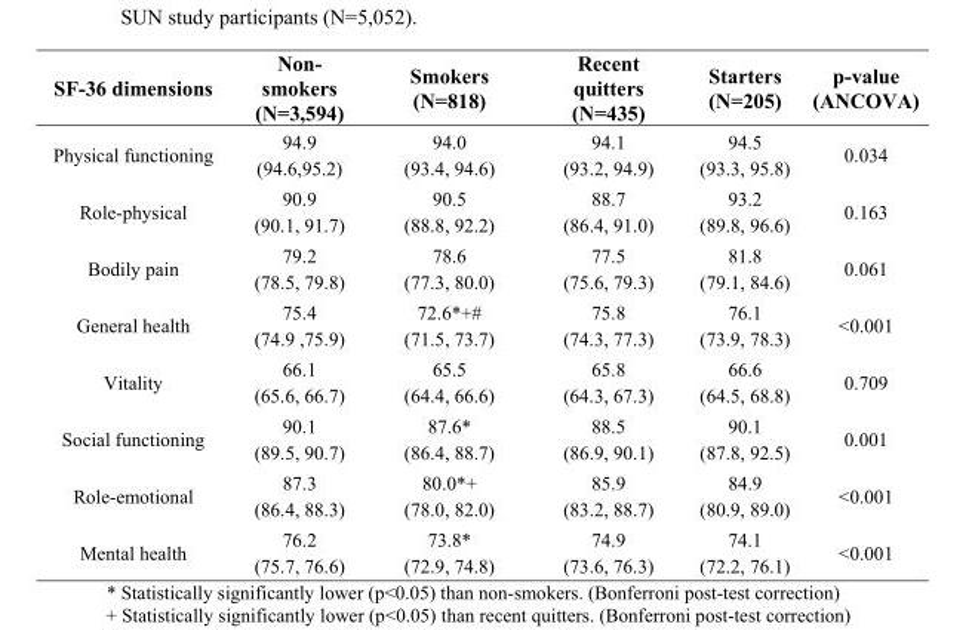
<table><thead><tr><td>SF-36 dimensions</td><td>Non- smokers (N=3,594)</td><td>Smokers (N=818)</td><td>Recent quitters (N=435)</td><td>Starters (N=205)</td><td>p-value (ANCOVA)</td></tr></thead><tbody><tr><td>Physical functioning</td><td>94.9 (94.6,95.2)</td><td>94.0 (93.4, 94.6)</td><td>94.1 (93.2, 94.9)</td><td>94.5 (93.3, 95.8)</td><td>0.034</td></tr><tr><td>Role-physical</td><td>90.9 (90.1, 91.7)</td><td>90.5 (88.8, 92.2)</td><td>88.7 (86.4, 91.0)</td><td>93.2 (89.8, 96.6)</td><td>0.163</td></tr><tr><td>Bodily pain</td><td>79.2 (78.5, 79.8)</td><td>78.6 (77.3, 80.0)</td><td>77.5 (75.6, 79.3)</td><td>81.8 (79.1, 84.6)</td><td>0.061</td></tr><tr><td>General health</td><td>75.4 (74.9 ,75.9)</td><td>72.6*+# (71.5, 73.7)</td><td>75.8 (74.3, 77.3)</td><td>76.1 (73.9, 78.3)</td><td>&lt;0.001</td></tr><tr><td>Vitality</td><td>66.1 (65.6, 66.7)</td><td>65.5 (64.4, 66.6)</td><td>65.8 (64.3, 67.3)</td><td>66.6 (64.5, 68.8)</td><td>0.709</td></tr><tr><td>Social functioning</td><td>90.1 (89.5, 90.7)</td><td>87.6* (86.4, 88.7)</td><td>88.5 (86.9, 90.1)</td><td>90.1 (87.8, 92.5)</td><td>0.001</td></tr><tr><td>Role-emotional</td><td>87.3 (86.4, 88.3)</td><td>80.0*+ (78.0, 82.0)</td><td>85.9 (83.2, 88.7)</td><td>84.9 (80.9, 89.0)</td><td>&lt;0.001</td></tr><tr><td>Mental health</td><td>76.2 (75.7, 76.6)</td><td>73.8* (72.9, 74.8)</td><td>74.9 (73.6, 76.3)</td><td>74.1 (72.2, 76.1)</td><td>&lt;0.001</td></tr></tbody></table>